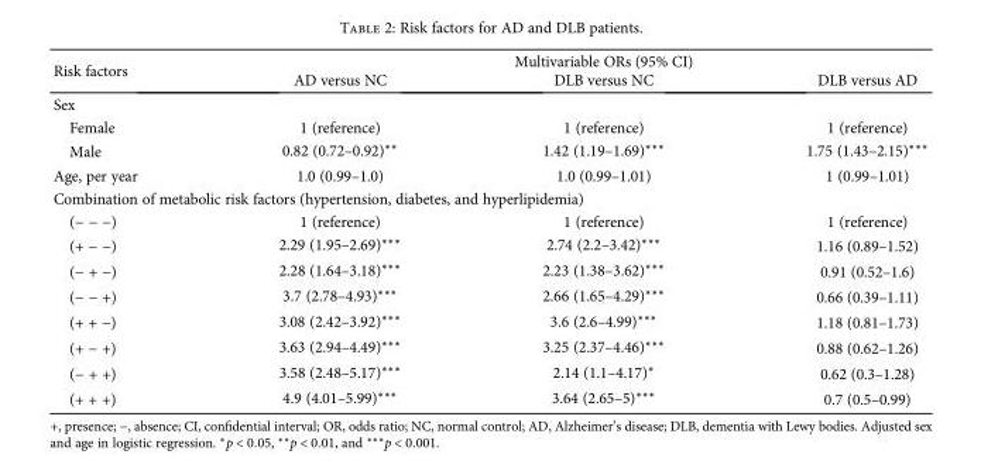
<table><thead><tr><td rowspan="2">Risk factors</td><td colspan="3">Multivariable ORs (95% CI)</td></tr><tr><td>AD versus NC</td><td>DLB versus NC</td><td>DLB versus AD</td></tr></thead><tbody><tr><td colspan="4">Sex</td></tr><tr><td>Female</td><td>1 (reference)</td><td>1 (reference)</td><td>1 (reference)</td></tr><tr><td>Male</td><td>0.82 (0.72–0.92)∗∗</td><td>1.42 (1.19–1.69)∗∗∗</td><td>1.75 (1.43–2.15)∗∗∗</td></tr><tr><td>Age, per year</td><td>1.0 (0.99–1.0)</td><td>1.0 (0.99–1.01)</td><td>1 (0.99–1.01)</td></tr><tr><td colspan="4">Combination of metabolic risk factors (hypertension, diabetes, and hyperlipidemia)</td></tr><tr><td>(− − −)</td><td>1 (reference)</td><td>1 (reference)</td><td>1 (reference)</td></tr><tr><td>(+ − −)</td><td>2.29 (1.95–2.69)∗∗∗</td><td>2.74 (2.2–3.42)∗∗∗</td><td>1.16 (0.89–1.52)</td></tr><tr><td>(− + −)</td><td>2.28 (1.64–3.18)∗∗∗</td><td>2.23 (1.38–3.62)∗∗∗</td><td>0.91 (0.52–1.6)</td></tr><tr><td>(− − +)</td><td>3.7 (2.78–4.93)∗∗∗</td><td>2.66 (1.65–4.29)∗∗∗</td><td>0.66 (0.39–1.11)</td></tr><tr><td>(+ + −)</td><td>3.08 (2.42–3.92)∗∗∗</td><td>3.6 (2.6–4.99)∗∗∗</td><td>1.18 (0.81–1.73)</td></tr><tr><td>(+ − +)</td><td>3.63 (2.94–4.49)∗∗∗</td><td>3.25 (2.37–4.46)∗∗∗</td><td>0.88 (0.62–1.26)</td></tr><tr><td>(− + +)</td><td>3.58 (2.48–5.17)∗∗∗</td><td>2.14 (1.1–4.17)∗</td><td>0.62 (0.3–1.28)</td></tr><tr><td>(+ + +)</td><td>4.9 (4.01–5.99)∗∗∗</td><td>3.64 (2.65–5)∗∗∗</td><td>0.7 (0.5–0.99)</td></tr></tbody></table>